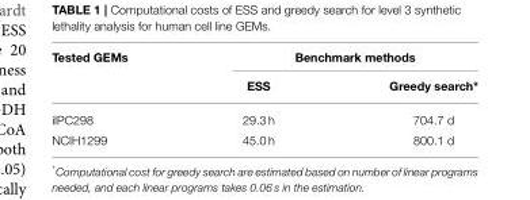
<table><thead><tr><td rowspan="2">Tested GEMs</td><td colspan="2">Benchmark methods</td></tr><tr><td>ESS</td><td>Greedy search*</td></tr></thead><tbody><tr><td>iIPC298</td><td>29.3 h</td><td>704.7 d</td></tr><tr><td>NCIH1299</td><td>45.0 h</td><td>800.1 d</td></tr></tbody></table>